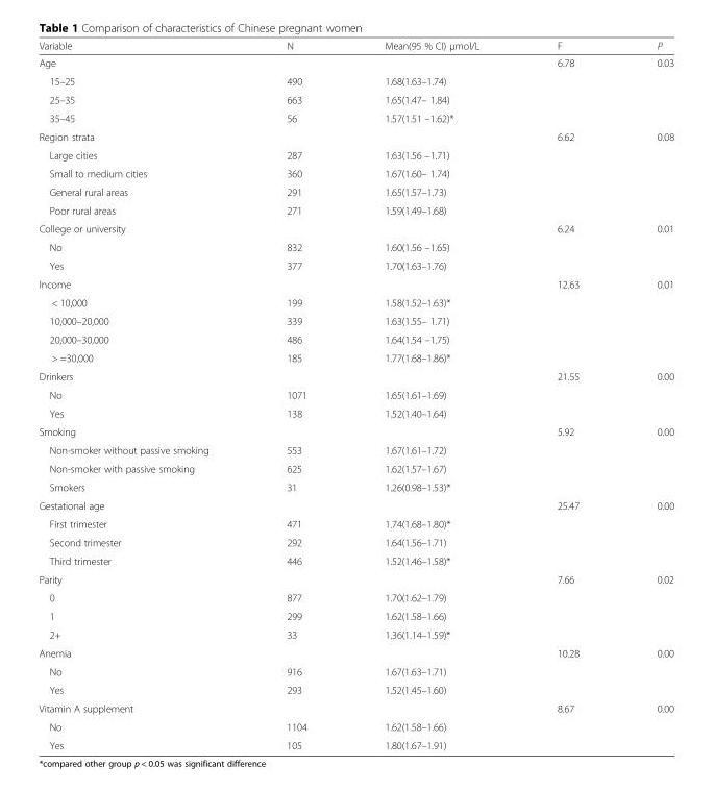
<table><thead><tr><td>Variable</td><td>N</td><td>Mean(95 % CI) μmol/L</td><td>F</td><td>P</td></tr></thead><tbody><tr><td>Age</td><td></td><td></td><td>6.78</td><td>0.03</td></tr><tr><td>15–25</td><td>490</td><td>1.68(1.63–1.74)</td><td></td><td></td></tr><tr><td>25–35</td><td>663</td><td>1.65(1.47– 1.84)</td><td></td><td></td></tr><tr><td>35–45</td><td>56</td><td>1.57(1.51 –1.62)*</td><td></td><td></td></tr><tr><td>Region strata</td><td></td><td></td><td>6.62</td><td>0.08</td></tr><tr><td>Large cities</td><td>287</td><td>1.63(1.56 –1.71)</td><td></td><td></td></tr><tr><td>Small to medium cities</td><td>360</td><td>1.67(1.60– 1.74)</td><td></td><td></td></tr><tr><td>General rural areas</td><td>291</td><td>1.65(1.57–1.73)</td><td></td><td></td></tr><tr><td>Poor rural areas</td><td>271</td><td>1.59(1.49–1.68)</td><td></td><td></td></tr><tr><td>College or university</td><td></td><td></td><td>6.24</td><td>0.01</td></tr><tr><td>No</td><td>832</td><td>1.60(1.56 –1.65)</td><td></td><td></td></tr><tr><td>Yes</td><td>377</td><td>1.70(1.63–1.76)</td><td></td><td></td></tr><tr><td>Income</td><td></td><td></td><td>12.63</td><td>0.01</td></tr><tr><td>&lt; 10,000</td><td>199</td><td>1.58(1.52–1.63)*</td><td></td><td></td></tr><tr><td>10,000–20,000</td><td>339</td><td>1.63(1.55– 1.71)</td><td></td><td></td></tr><tr><td>20,000–30,000</td><td>486</td><td>1.64(1.54 –1.75)</td><td></td><td></td></tr><tr><td>&gt; =30,000</td><td>185</td><td>1.77(1.68–1.86)*</td><td></td><td></td></tr><tr><td>Drinkers</td><td></td><td></td><td>21.55</td><td>0.00</td></tr><tr><td>No</td><td>1071</td><td>1.65(1.61–1.69)</td><td></td><td></td></tr><tr><td>Yes</td><td>138</td><td>1.52(1.40–1.64)</td><td></td><td></td></tr><tr><td>Smoking</td><td></td><td></td><td>5.92</td><td>0.00</td></tr><tr><td>Non-smoker without passive smoking</td><td>553</td><td>1.67(1.61–1.72)</td><td></td><td></td></tr><tr><td>Non-smoker with passive smoking</td><td>625</td><td>1.62(1.57–1.67)</td><td></td><td></td></tr><tr><td>Smokers</td><td>31</td><td>1.26(0.98–1.53)*</td><td></td><td></td></tr><tr><td>Gestational age</td><td></td><td></td><td>25.47</td><td>0.00</td></tr><tr><td>First trimester</td><td>471</td><td>1.74(1.68–1.80)*</td><td></td><td></td></tr><tr><td>Second trimester</td><td>292</td><td>1.64(1.56–1.71)</td><td></td><td></td></tr><tr><td>Third trimester</td><td>446</td><td>1.52(1.46–1.58)*</td><td></td><td></td></tr><tr><td>Parity</td><td></td><td></td><td>7.66</td><td>0.02</td></tr><tr><td>0</td><td>877</td><td>1.70(1.62–1.79)</td><td></td><td></td></tr><tr><td>1</td><td>299</td><td>1.62(1.58–1.66)</td><td></td><td></td></tr><tr><td>2+</td><td>33</td><td>1.36(1.14–1.59)*</td><td></td><td></td></tr><tr><td>Anemia</td><td></td><td></td><td>10.28</td><td>0.00</td></tr><tr><td>No</td><td>916</td><td>1.67(1.63–1.71)</td><td></td><td></td></tr><tr><td>Yes</td><td>293</td><td>1.52(1.45–1.60)</td><td></td><td></td></tr><tr><td>Vitamin A supplement</td><td></td><td></td><td>8.67</td><td>0.00</td></tr><tr><td>No</td><td>1104</td><td>1.62(1.58–1.66)</td><td></td><td></td></tr><tr><td>Yes</td><td>105</td><td>1.80(1.67–1.91)</td><td></td><td></td></tr></tbody></table>